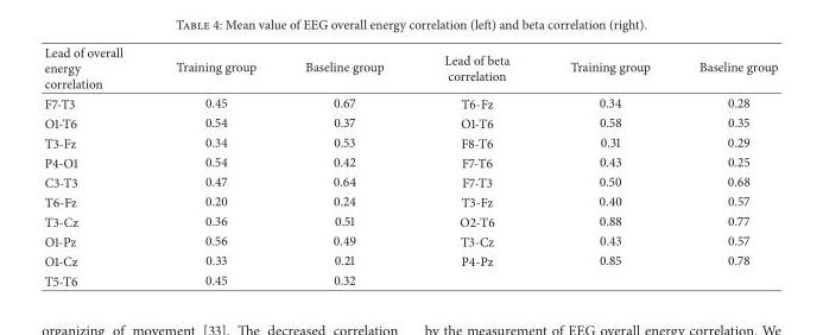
<table><thead><tr><td>Lead of overall energy correlation</td><td>Training group</td><td>Baseline group</td><td>Lead of beta correlation</td><td>Training group</td><td>Baseline group</td></tr></thead><tbody><tr><td>F7-T3</td><td>0.45</td><td>0.67</td><td>T6-Fz</td><td>0.34</td><td>0.28</td></tr><tr><td>O1-T6</td><td>0.54</td><td>0.37</td><td>O1-T6</td><td>0.58</td><td>0.35</td></tr><tr><td>T3-Fz</td><td>0.34</td><td>0.53</td><td>F8-T6</td><td>0.31</td><td>0.29</td></tr><tr><td>P4-O1</td><td>0.54</td><td>0.42</td><td>F7-T6</td><td>0.43</td><td>0.25</td></tr><tr><td>C3-T3</td><td>0.47</td><td>0.64</td><td>F7-T3</td><td>0.50</td><td>0.68</td></tr><tr><td>T6-Fz</td><td>0.20</td><td>0.24</td><td>T3-Fz</td><td>0.40</td><td>0.57</td></tr><tr><td>T3-Cz</td><td>0.36</td><td>0.51</td><td>O2-T6</td><td>0.88</td><td>0.77</td></tr><tr><td>O1-Pz</td><td>0.56</td><td>0.49</td><td>T3-Cz</td><td>0.43</td><td>0.57</td></tr><tr><td>O1-Cz</td><td>0.33</td><td>0.21</td><td>P4-Pz</td><td>0.85</td><td>0.78</td></tr><tr><td>T5-T6</td><td>0.45</td><td>0.32</td><td></td><td></td><td></td></tr></tbody></table>